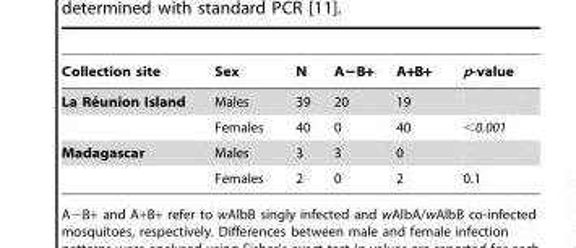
<table><thead><tr><td>Collection site</td><td>Sex</td><td>N</td><td>A−B+</td><td>A+B+</td><td>p-value</td></tr></thead><tbody><tr><td rowspan="2">La Re´union Island</td><td>Males</td><td>39</td><td>20</td><td>19</td><td></td></tr><tr><td>Females</td><td>40</td><td>0</td><td>40</td><td>&lt;0.001</td></tr><tr><td rowspan="2">Madagascar</td><td>Males</td><td>3</td><td>3</td><td>0</td><td></td></tr><tr><td>Females</td><td>2</td><td>0</td><td>2</td><td>0.1</td></tr></tbody></table>